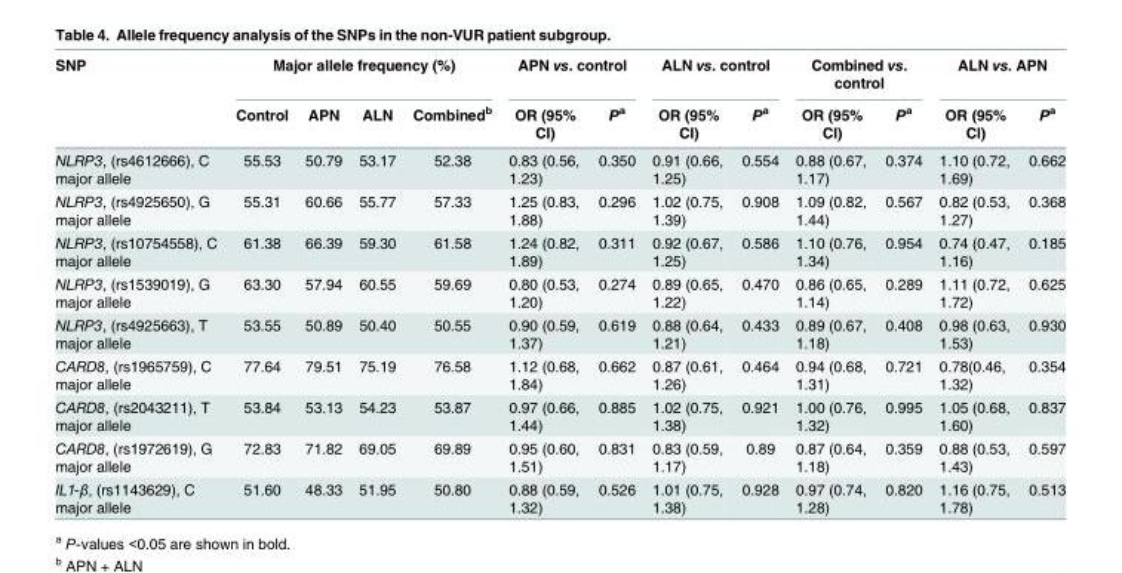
<table><thead><tr><td rowspan="2">SNP</td><td colspan="4">Major allele frequency (%)</td><td colspan="2">APN vs. control</td><td colspan="2">ALN vs. control</td><td colspan="2">Combined vs. control</td><td colspan="2">ALN vs. APN</td></tr><tr><td>Control</td><td>APN</td><td>ALN</td><td>Combined<sup>b</sup></td><td>OR (95% CI)</td><td>P<sup>a</sup></td><td>OR (95% CI)</td><td>P<sup>a</sup></td><td>OR (95% CI)</td><td>P<sup>a</sup></td><td>OR (95% CI)</td><td>P<sup>a</sup></td></tr></thead><tbody><tr><td>NLRP3, (rs4612666), C major allele</td><td>55.53</td><td>50.79</td><td>53.17</td><td>52.38</td><td>0.83 (0.56, 1.23)</td><td>0.350</td><td>0.91 (0.66, 1.25)</td><td>0.554</td><td>0.88 (0.67, 1.17)</td><td>0.374</td><td>1.10 (0.72, 1.69)</td><td>0.662</td></tr><tr><td>NLRP3, (rs4925650), G major allele</td><td>55.31</td><td>60.66</td><td>55.77</td><td>57.33</td><td>1.25 (0.83, 1.88)</td><td>0.296</td><td>1.02 (0.75, 1.39)</td><td>0.908</td><td>1.09 (0.82, 1.44)</td><td>0.567</td><td>0.82 (0.53, 1.27)</td><td>0.368</td></tr><tr><td>NLRP3, (rs10754558), C major allele</td><td>61.38</td><td>66.39</td><td>59.30</td><td>61.58</td><td>1.24 (0.82, 1.89)</td><td>0.311</td><td>0.92 (0.67, 1.25)</td><td>0.586</td><td>1.10 (0.76, 1.34)</td><td>0.954</td><td>0.74 (0.47, 1.16)</td><td>0.185</td></tr><tr><td>NLRP3, (rs1539019), G major allele</td><td>63.30</td><td>57.94</td><td>60.55</td><td>59.69</td><td>0.80 (0.53, 1.20)</td><td>0.274</td><td>0.89 (0.65, 1.22)</td><td>0.470</td><td>0.86 (0.65, 1.14)</td><td>0.289</td><td>1.11 (0.72, 1.72)</td><td>0.625</td></tr><tr><td>NLRP3, (rs4925663), T major allele</td><td>53.55</td><td>50.89</td><td>50.40</td><td>50.55</td><td>0.90 (0.59, 1.37)</td><td>0.619</td><td>0.88 (0.64, 1.21)</td><td>0.433</td><td>0.89 (0.67, 1.18)</td><td>0.408</td><td>0.98 (0.63, 1.53)</td><td>0.930</td></tr><tr><td>CARD8, (rs1965759), C major allele</td><td>77.64</td><td>79.51</td><td>75.19</td><td>76.58</td><td>1.12 (0.68, 1.84)</td><td>0.662</td><td>0.87 (0.61, 1.26)</td><td>0.464</td><td>0.94 (0.68, 1.31)</td><td>0.721</td><td>0.78(0.46, 1.32)</td><td>0.354</td></tr><tr><td>CARD8, (rs2043211), T major allele</td><td>53.84</td><td>53.13</td><td>54.23</td><td>53.87</td><td>0.97 (0.66, 1.44)</td><td>0.885</td><td>1.02 (0.75, 1.38)</td><td>0.921</td><td>1.00 (0.76, 1.32)</td><td>0.995</td><td>1.05 (0.68, 1.60)</td><td>0.837</td></tr><tr><td>CARD8, (rs1972619), G major allele</td><td>72.83</td><td>71.82</td><td>69.05</td><td>69.89</td><td>0.95 (0.60, 1.51)</td><td>0.831</td><td>0.83 (0.59, 1.17)</td><td>0.89</td><td>0.87 (0.64, 1.18)</td><td>0.359</td><td>0.88 (0.53, 1.43)</td><td>0.597</td></tr><tr><td>IL1-β, (rs1143629), C major allele</td><td>51.60</td><td>48.33</td><td>51.95</td><td>50.80</td><td>0.88 (0.59, 1.32)</td><td>0.526</td><td>1.01 (0.75, 1.38)</td><td>0.928</td><td>0.97 (0.74, 1.28)</td><td>0.820</td><td>1.16 (0.75, 1.78)</td><td>0.513</td></tr></tbody></table>